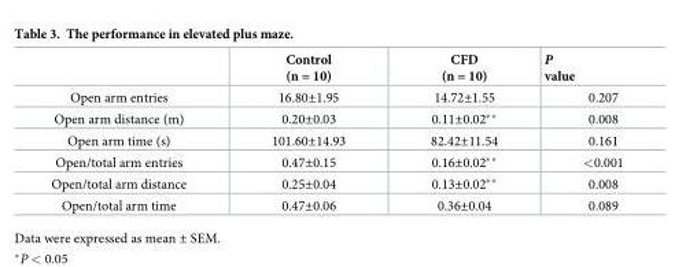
<table><thead><tr><td></td><td>Control (n = 10)</td><td>CFD (n = 10)</td><td>P value</td></tr></thead><tbody><tr><td>Open arm entries</td><td>16.80±1.95</td><td>14.72±1.55</td><td>0.207</td></tr><tr><td>Open arm distance (m)</td><td>0.20±0.03</td><td>0.11±0.02**</td><td>0.008</td></tr><tr><td>Open arm time (s)</td><td>101.60±14.93</td><td>82.42±11.54</td><td>0.161</td></tr><tr><td>Open/total arm entries</td><td>0.47±0.15</td><td>0.16±0.02**</td><td>&lt;0.001</td></tr><tr><td>Open/total arm distance</td><td>0.25±0.04</td><td>0.13±0.02**</td><td>0.008</td></tr><tr><td>Open/total arm time</td><td>0.47±0.06</td><td>0.36±0.04</td><td>0.089</td></tr></tbody></table>